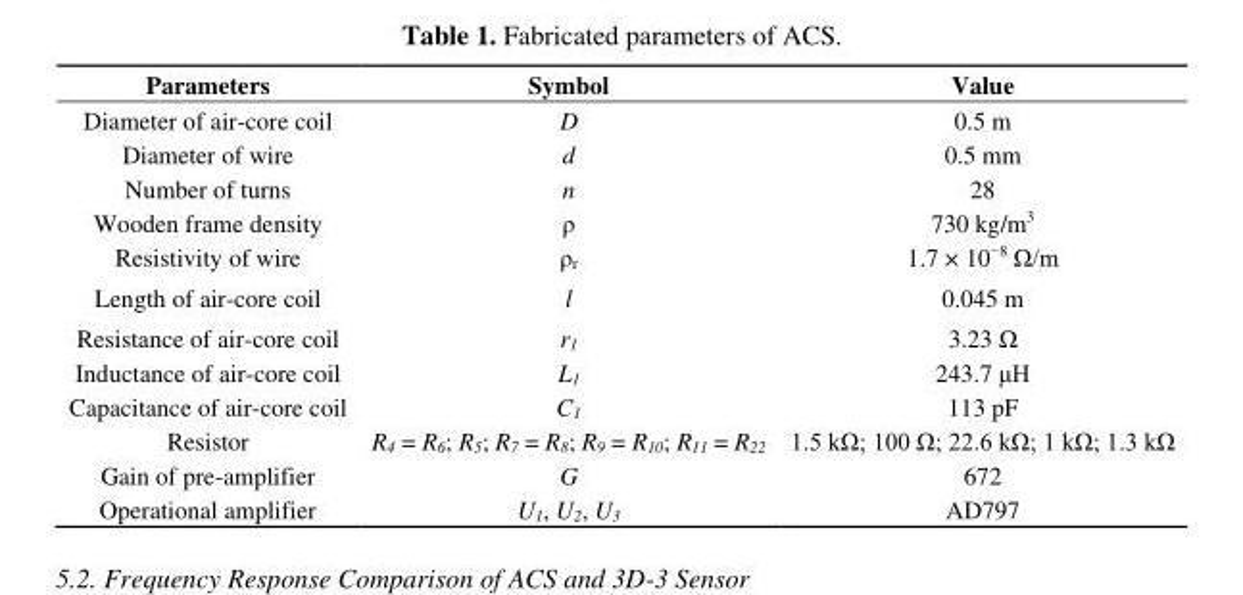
<table><thead><tr><td>Parameters</td><td>Symbol</td><td>Value</td></tr></thead><tbody><tr><td>Diameter of air-core coil</td><td>D</td><td>0.5 m</td></tr><tr><td>Diameter of wire</td><td>d</td><td>0.5 mm</td></tr><tr><td>Number of turns</td><td>n</td><td>28</td></tr><tr><td>Wooden frame density</td><td>ρ</td><td>730 kg/m<sup>3</sup></td></tr><tr><td>Resistivity of wire</td><td>ρ<sub>r</sub></td><td>1.7 × 10<sup>−8</sup> Ω/m</td></tr><tr><td>Length of air-core coil</td><td>l</td><td>0.045 m</td></tr><tr><td>Resistance of air-core coil</td><td>r<sub>1</sub></td><td>3.23 Ω</td></tr><tr><td>Inductance of air-core coil</td><td>L<sub>1</sub></td><td>243.7 μH</td></tr><tr><td>Capacitance of air-core coil</td><td>C<sub>1</sub></td><td>113 pF</td></tr><tr><td>Resistor</td><td>R<sub>4</sub> = R<sub>6</sub>; R<sub>5</sub>; R<sub>7</sub> = R<sub>8</sub>; R<sub>9</sub> = R<sub>10</sub>; R<sub>11</sub> = R<sub>22</sub></td><td>1.5 kΩ; 100 Ω; 22.6 kΩ; 1 kΩ; 1.3 kΩ</td></tr><tr><td>Gain of pre-amplifier</td><td>G</td><td>672</td></tr><tr><td>Operational amplifier</td><td>U<sub>1</sub>, U<sub>2</sub>, U<sub>3</sub></td><td>AD797</td></tr></tbody></table>